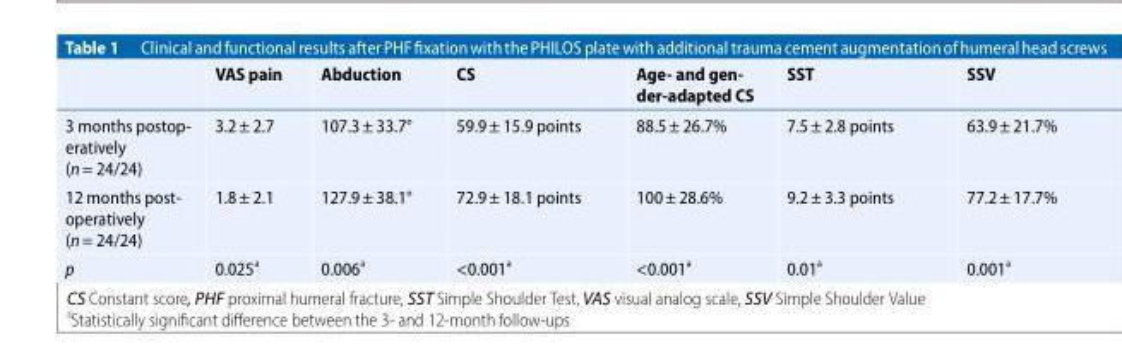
<table><thead><tr><td></td><td>VAS pain</td><td>Abduction</td><td>CS</td><td>Age- and gen- der-adapted CS</td><td>SST</td><td>SSV</td></tr></thead><tbody><tr><td>3 months postop- eratively (n= 24/24)</td><td>3.2± 2.7</td><td>107.3± 33.7°</td><td>59.9± 15.9 points</td><td>88.5± 26.7%</td><td>7.5± 2.8 points</td><td>63.9± 21.7%</td></tr><tr><td>12 months post- operatively (n= 24/24)</td><td>1.8± 2.1</td><td>127.9± 38.1°</td><td>72.9± 18.1 points</td><td>100± 28.6%</td><td>9.2± 3.3 points</td><td>77.2± 17.7%</td></tr><tr><td>p</td><td>0.025<sup>a</sup></td><td>0.006<sup>a</sup></td><td>&lt;0.001<sup>a</sup></td><td>&lt;0.001<sup>a</sup></td><td>0.01<sup>a</sup></td><td>0.001<sup>a</sup></td></tr></tbody></table>